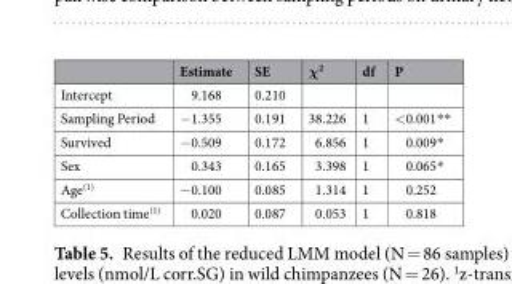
<table><thead><tr><td></td><td>Estimate</td><td>SE</td><td>χ<sup>2</sup></td><td>df</td><td>P</td></tr></thead><tbody><tr><td>Intercept</td><td>9.168</td><td>0.210</td><td></td><td></td><td></td></tr><tr><td>Sampling Period</td><td>−1.355</td><td>0.191</td><td>38.226</td><td>1</td><td>&lt;0.001**</td></tr><tr><td>Survived</td><td>−0.509</td><td>0.172</td><td>6.856</td><td>1</td><td>0.009*</td></tr><tr><td>Sex</td><td>0.343</td><td>0.165</td><td>3.398</td><td>1</td><td>0.065*</td></tr><tr><td>Age<sup>(1)</sup></td><td>−0.100</td><td>0.085</td><td>1.314</td><td>1</td><td>0.252</td></tr><tr><td>Collection time<sup>(1)</sup></td><td>0.020</td><td>0.087</td><td>0.053</td><td>1</td><td>0.818</td></tr></tbody></table>